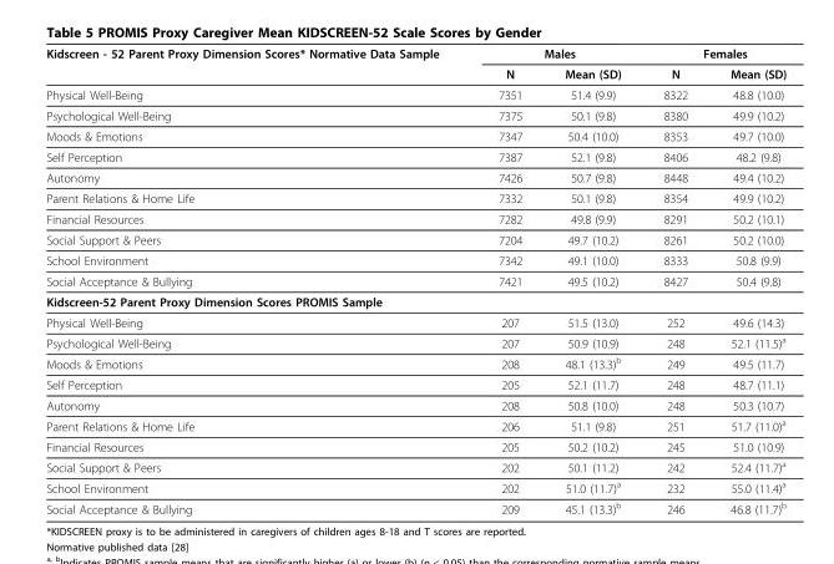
<table><thead><tr><td rowspan="2">Kidscreen - 52 Parent Proxy Dimension Scores* Normative Data Sample</td><td colspan="2">Males</td><td colspan="2">Females</td></tr><tr><td>N</td><td>Mean (SD)</td><td>N</td><td>Mean (SD)</td></tr></thead><tbody><tr><td>Physical Well-Being</td><td>7351</td><td>51.4 (9.9)</td><td>8322</td><td>48.8 (10.0)</td></tr><tr><td>Psychological Well-Being</td><td>7375</td><td>50.1 (9.8)</td><td>8380</td><td>49.9 (10.2)</td></tr><tr><td>Moods &amp; Emotions</td><td>7347</td><td>50.4 (10.0)</td><td>8353</td><td>49.7 (10.0)</td></tr><tr><td>Self Perception</td><td>7387</td><td>52.1 (9.8)</td><td>8406</td><td>48.2 (9.8)</td></tr><tr><td>Autonomy</td><td>7426</td><td>50.7 (9.8)</td><td>8448</td><td>49.4 (10.2)</td></tr><tr><td>Parent Relations &amp; Home Life</td><td>7332</td><td>50.1 (9.8)</td><td>8354</td><td>49.9 (10.2)</td></tr><tr><td>Financial Resources</td><td>7282</td><td>49.8 (9.9)</td><td>8291</td><td>50.2 (10.1)</td></tr><tr><td>Social Support &amp; Peers</td><td>7204</td><td>49.7 (10.2)</td><td>8261</td><td>50.2 (10.0)</td></tr><tr><td>School Environment</td><td>7342</td><td>49.1 (10.0)</td><td>8333</td><td>50.8 (9.9)</td></tr><tr><td>Social Acceptance &amp; Bullying</td><td>7421</td><td>49.5 (10.2)</td><td>8427</td><td>50.4 (9.8)</td></tr><tr><td colspan="5">Kidscreen-52 Parent Proxy Dimension Scores PROMIS Sample</td></tr><tr><td>Physical Well-Being</td><td>207</td><td>51.5 (13.0)</td><td>252</td><td>49.6 (14.3)</td></tr><tr><td>Psychological Well-Being</td><td>207</td><td>50.9 (10.9)</td><td>248</td><td>52.1 (11.5)<sup>a</sup></td></tr><tr><td>Moods &amp; Emotions</td><td>208</td><td>48.1 (13.3)<sup>b</sup></td><td>249</td><td>49.5 (11.7)</td></tr><tr><td>Self Perception</td><td>205</td><td>52.1 (11.7)</td><td>248</td><td>48.7 (11.1)</td></tr><tr><td>Autonomy</td><td>208</td><td>50.8 (10.0)</td><td>248</td><td>50.3 (10.7)</td></tr><tr><td>Parent Relations &amp; Home Life</td><td>206</td><td>51.1 (9.8)</td><td>251</td><td>51.7 (11.0)<sup>a</sup></td></tr><tr><td>Financial Resources</td><td>205</td><td>50.2 (10.2)</td><td>245</td><td>51.0 (10.9)</td></tr><tr><td>Social Support &amp; Peers</td><td>202</td><td>50.1 (11.2)</td><td>242</td><td>52.4 (11.7)<sup>a</sup></td></tr><tr><td>School Environment</td><td>202</td><td>51.0 (11.7)<sup>a</sup></td><td>232</td><td>55.0 (11.4)<sup>a</sup></td></tr><tr><td>Social Acceptance &amp; Bullying</td><td>209</td><td>45.1 (13.3)<sup>b</sup></td><td>246</td><td>46.8 (11.7)<sup>b</sup></td></tr></tbody></table>